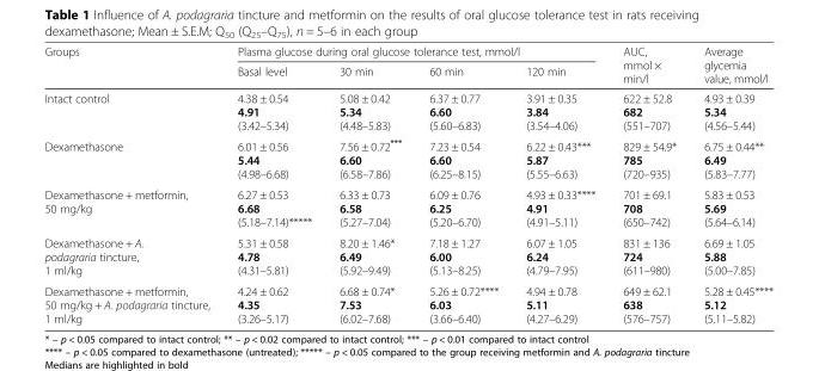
<table><thead><tr><td rowspan="2">Groups</td><td colspan="4">Plasma glucose during oral glucose tolerance test, mmol/l</td><td rowspan="2">AUC, mmol × min/l</td><td rowspan="2">Average glycemia value, mmol/l</td></tr><tr><td>Basal level</td><td>30 min</td><td>60 min</td><td>120 min</td></tr></thead><tbody><tr><td>Intact control</td><td>4.38 ± 0.54 4.91 (3.42–5.34)</td><td>5.08 ± 0.42 5.34 (4.48–5.83)</td><td>6.37 ± 0.77 6.60 (5.60–6.83)</td><td>3.91 ± 0.35 3.84 (3.54–4.06)</td><td>622 ± 52.8 682 (551–707)</td><td>4.93 ± 0.39 5.34 (4.56–5.44)</td></tr><tr><td>Dexamethasone</td><td>6.01 ± 0.56 5.44 (4.98–6.68)</td><td>7.56 ± 0.72*** 6.60 (6.58–7.86)</td><td>7.23 ± 0.54 6.60 (6.25–8.15)</td><td>6.22 ± 0.43*** 5.87 (5.55–6.63)</td><td>829 ± 54.9* 785 (720–935)</td><td>6.75 ± 0.44** 6.49 (5.83–7.77)</td></tr><tr><td>Dexamethasone + metformin, 50 mg/kg</td><td>6.27 ± 0.53 6.68 (5.18–7.14)*****</td><td>6.33 ± 0.73 6.58 (5.27–7.04)</td><td>6.09 ± 0.76 6.25 (5.20–6.70)</td><td>4.93 ± 0.33**** 4.91 (4.91–5.11)</td><td>701 ± 69.1 708 (650–742)</td><td>5.83 ± 0.53 5.69 (5.64–6.14)</td></tr><tr><td>Dexamethasone + A. podagraria tincture, 1 ml/kg</td><td>5.31 ± 0.58 4.78 (4.31–5.81)</td><td>8.20 ± 1.46* 6.49 (5.92–9.49)</td><td>7.18 ± 1.27 6.00 (5.13–8.25)</td><td>6.07 ± 1.05 6.24 (4.79–7.95)</td><td>831 ± 136 724 (611–980)</td><td>6.69 ± 1.05 5.88 (5.00–7.85)</td></tr><tr><td>Dexamethasone + metformin, 50 mg/kg + A. podagraria tincture, 1 ml/kg</td><td>4.24 ± 0.62 4.35 (3.26–5.17)</td><td>6.68 ± 0.74* 7.53 (6.02–7.68)</td><td>5.26 ± 0.72**** 6.03 (3.66–6.40)</td><td>4.94 ± 0.78 5.11 (4.27–6.29)</td><td>649 ± 62.1 638 (576–757)</td><td>5.28 ± 0.45**** 5.12 (5.11–5.82)</td></tr></tbody></table>